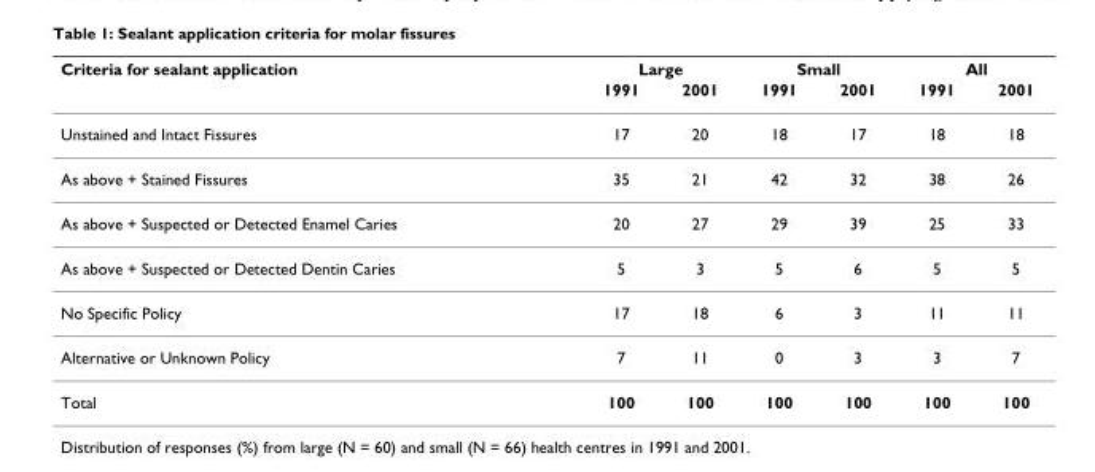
<table><thead><tr><td rowspan="2">Criteria for sealant application</td><td colspan="2">Large</td><td colspan="2">Small</td><td colspan="2">All</td></tr><tr><td>1991</td><td>2001</td><td>1991</td><td>2001</td><td>1991</td><td>2001</td></tr></thead><tbody><tr><td>Unstained and Intact Fissures</td><td>17</td><td>20</td><td>18</td><td>17</td><td>18</td><td>18</td></tr><tr><td>As above + Stained Fissures</td><td>35</td><td>21</td><td>42</td><td>32</td><td>38</td><td>26</td></tr><tr><td>As above + Suspected or Detected Enamel Caries</td><td>20</td><td>27</td><td>29</td><td>39</td><td>25</td><td>33</td></tr><tr><td>As above + Suspected or Detected Dentin Caries</td><td>5</td><td>3</td><td>5</td><td>6</td><td>5</td><td>5</td></tr><tr><td>No Specific Policy</td><td>17</td><td>18</td><td>6</td><td>3</td><td>11</td><td>11</td></tr><tr><td>Alternative or Unknown Policy</td><td>7</td><td>11</td><td>0</td><td>3</td><td>3</td><td>7</td></tr><tr><td>Total</td><td>100</td><td>100</td><td>100</td><td>100</td><td>100</td><td>100</td></tr></tbody></table>